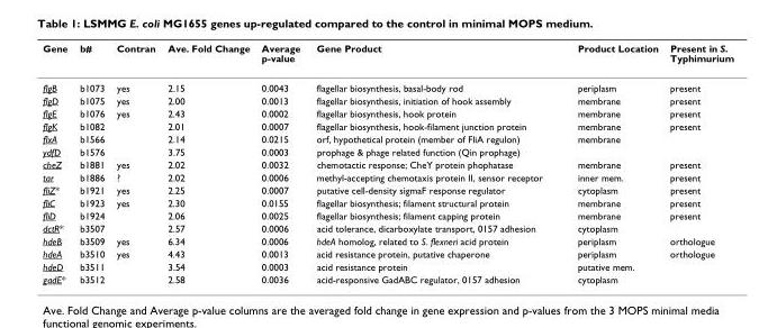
<table><thead><tr><td>Gene</td><td>b#</td><td>Contran</td><td>Ave. Fold Change</td><td>Average p-value</td><td>Gene Product</td><td>Product Location</td><td>Present in S. Typhimurium</td></tr></thead><tbody><tr><td>flgB</td><td>b1073</td><td>yes</td><td>2.15</td><td>0.0043</td><td>flagellar biosynthesis, basal-body rod</td><td>periplasm</td><td>present</td></tr><tr><td>flgD</td><td>b1075</td><td>yes</td><td>2.00</td><td>0.0013</td><td>flagellar biosynthesis, initiation of hook assembly</td><td>membrane</td><td>present</td></tr><tr><td>flgE</td><td>b1076</td><td>yes</td><td>2.43</td><td>0.0002</td><td>flagellar biosynthesis, hook protein</td><td>membrane</td><td>present</td></tr><tr><td>flgK</td><td>b1082</td><td></td><td>2.01</td><td>0.0007</td><td>flagellar biosynthesis, hook-filament junction protein</td><td>membrane</td><td>present</td></tr><tr><td>flxA</td><td>b1566</td><td></td><td>2.14</td><td>0.0215</td><td>orf, hypothetical protein (member of FliA regulon)</td><td>membrane</td><td></td></tr><tr><td>ydfD</td><td>b1576</td><td></td><td>3.75</td><td>0.0003</td><td>prophage &amp; phage related function (Qin prophage)</td><td></td><td></td></tr><tr><td>cheZ</td><td>b1881</td><td>yes</td><td>2.02</td><td>0.0032</td><td>chemotactic response; CheY protein phophatase</td><td>membrane</td><td>present</td></tr><tr><td>tar</td><td>b1886</td><td>?</td><td>2.02</td><td>0.0006</td><td>methyl-accepting chemotaxis protein II, sensor receptor</td><td>inner mem.</td><td>present</td></tr><tr><td>fliZ*</td><td>b1921</td><td>yes</td><td>2.25</td><td>0.0007</td><td>putative cell-density sigmaF response regulator</td><td>cytoplasm</td><td>present</td></tr><tr><td>fliC</td><td>b1923</td><td>yes</td><td>2.30</td><td>0.0155</td><td>flagellar biosynthesis; filament structural protein</td><td>membrane</td><td>present</td></tr><tr><td>fliD</td><td>b1924</td><td></td><td>2.06</td><td>0.0025</td><td>flagellar biosynthesis; filament capping protein</td><td>membrane</td><td>present</td></tr><tr><td>dctR*</td><td>b3507</td><td></td><td>2.57</td><td>0.0006</td><td>acid tolerance, dicarboxylate transport, 0157 adhesion</td><td>cytoplasm</td><td></td></tr><tr><td>hdeB</td><td>b3509</td><td>yes</td><td>6.34</td><td>0.0006</td><td>hdeA homolog, related to S. flexneri acid protein</td><td>periplasm</td><td>orthologue</td></tr><tr><td>hdeA</td><td>b3510</td><td>yes</td><td>4.43</td><td>0.0013</td><td>acid resistance protein, putative chaperone</td><td>periplasm</td><td>orthologue</td></tr><tr><td>hdeD</td><td>b3511</td><td></td><td>3.54</td><td>0.0003</td><td>acid resistance protein</td><td>putative mem.</td><td></td></tr><tr><td>gadE*</td><td>b3512</td><td></td><td>2.58</td><td>0.0036</td><td>acid-responsive GadABC regulator, 0157 adhesion</td><td>cytoplasm</td><td></td></tr></tbody></table>